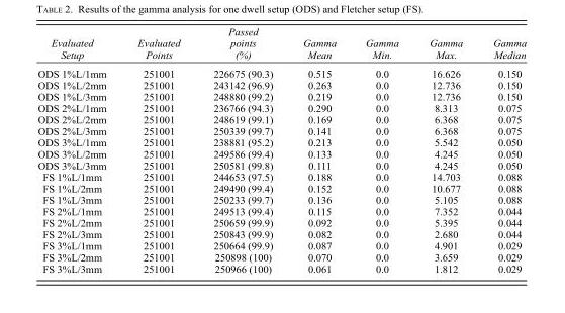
<table><thead><tr><td>Evaluated Setup</td><td>Evaluated Points</td><td>points (%)</td><td>Gamma Mean</td><td>Gamma Min.</td><td>Gamma Max.</td><td>Gamma Median</td></tr></thead><tbody><tr><td>ODS 1%L/1mm</td><td>251001</td><td>226675 (90.3)</td><td>0.515</td><td>0.0</td><td>16.626</td><td>0.150</td></tr><tr><td>ODS 1%L/2mm</td><td>251001</td><td>243142 (96.9)</td><td>0.263</td><td>0.0</td><td>12.736</td><td>0.150</td></tr><tr><td>ODS 1%L/3mm</td><td>251001</td><td>248880 (99.2)</td><td>0.219</td><td>0.0</td><td>12.736</td><td>0.150</td></tr><tr><td>ODS 2%L/1mm</td><td>251001</td><td>236766 (94.3)</td><td>0.290</td><td>0.0</td><td>8.313</td><td>0.075</td></tr><tr><td>ODS 2%L/2mm</td><td>251001</td><td>248619 (99.1)</td><td>0.169</td><td>0.0</td><td>6.368</td><td>0.075</td></tr><tr><td>ODS 2%L/3mm</td><td>251001</td><td>250339 (99.7)</td><td>0.141</td><td>0.0</td><td>6.368</td><td>0.075</td></tr><tr><td>ODS 3%L/1mm</td><td>251001</td><td>238881 (95.2)</td><td>0.213</td><td>0.0</td><td>5.542</td><td>0.050</td></tr><tr><td>ODS 3%L/2mm</td><td>251001</td><td>249586 (99.4)</td><td>0.133</td><td>0.0</td><td>4.245</td><td>0.050</td></tr><tr><td>ODS 3%L/3mm</td><td>251001</td><td>250581 (99.8)</td><td>0.111</td><td>0.0</td><td>4.245</td><td>0.050</td></tr><tr><td>FS 1%L/1mm</td><td>251001</td><td>244653 (97.5)</td><td>0.188</td><td>0.0</td><td>14.703</td><td>0.088</td></tr><tr><td>FS 1%L/2mm</td><td>251001</td><td>249490 (99.4)</td><td>0.152</td><td>0.0</td><td>10.677</td><td>0.088</td></tr><tr><td>FS 1%L/3mm</td><td>251001</td><td>250233 (99.7)</td><td>0.136</td><td>0.0</td><td>5.105</td><td>0.088</td></tr><tr><td>FS 2%L/1mm</td><td>251001</td><td>249513 (99.4)</td><td>0.115</td><td>0.0</td><td>7.352</td><td>0.044</td></tr><tr><td>FS 2%L/2mm</td><td>251001</td><td>250659 (99.9)</td><td>0.092</td><td>0.0</td><td>5.395</td><td>0.044</td></tr><tr><td>FS 2%L/3mm</td><td>251001</td><td>250843 (99.9)</td><td>0.082</td><td>0.0</td><td>2.680</td><td>0.044</td></tr><tr><td>FS 3%L/1mm</td><td>251001</td><td>250664 (99.9)</td><td>0.087</td><td>0.0</td><td>4.901</td><td>0.029</td></tr><tr><td>FS 3%L/2mm</td><td>251001</td><td>250898 (100)</td><td>0.070</td><td>0.0</td><td>3.659</td><td>0.029</td></tr><tr><td>FS 3%L/3mm</td><td>251001</td><td>250966 (100)</td><td>0.061</td><td>0.0</td><td>1.812</td><td>0.029</td></tr></tbody></table>